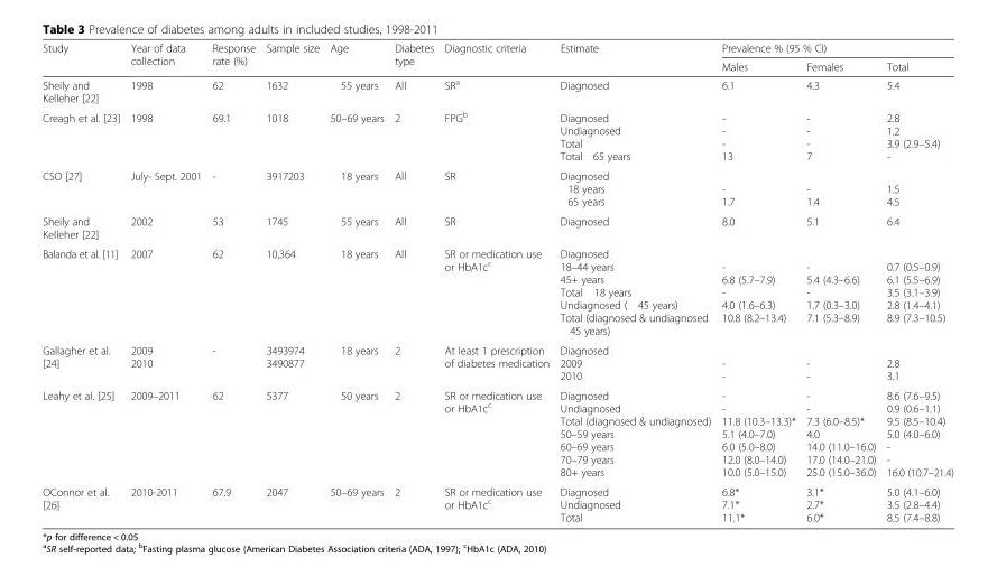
<table><thead><tr><td rowspan="2">Study</td><td rowspan="2">Year of data collection</td><td rowspan="2">Response rate (%)</td><td rowspan="2">Sample size</td><td rowspan="2">Age</td><td rowspan="2">Diabetes type</td><td rowspan="2">Diagnostic criteria</td><td rowspan="2">Estimate</td><td colspan="3">Prevalence % (95 % CI)</td></tr><tr><td>Males</td><td>Females</td><td>Total</td></tr></thead><tbody><tr><td>Sheily and Kelleher [22]</td><td>1998</td><td>62</td><td>1632</td><td>55 years</td><td>All</td><td>SR<sup>a</sup></td><td>Diagnosed</td><td>6.1</td><td>4.3</td><td>5.4</td></tr><tr><td>Creagh et al. [23]</td><td>1998</td><td>69.1</td><td>1018</td><td>50–69 years</td><td>2</td><td>FPG<sup>b</sup></td><td>Diagnosed Undiagnosed Total Total 65 years</td><td>- - - 13</td><td>- - - 7</td><td>2.8 1.2 3.9 (2.9–5.4) -</td></tr><tr><td>CSO [27]</td><td>July- Sept. 2001</td><td>-</td><td>3917203</td><td>18 years</td><td>All</td><td>SR</td><td>Diagnosed 18 years 65 years</td><td>- 1.7</td><td>- 1.4</td><td>1.5 4.5</td></tr><tr><td>Sheily and Kelleher [22]</td><td>2002</td><td>53</td><td>1745</td><td>55 years</td><td>All</td><td>SR</td><td>Diagnosed</td><td>8.0</td><td>5.1</td><td>6.4</td></tr><tr><td>Balanda et al. [11]</td><td>2007</td><td>62</td><td>10,364</td><td>18 years</td><td>All</td><td>SR or medication use or HbA1c<sup>c</sup></td><td>Diagnosed 18–44 years 45+ years Total 18 years Undiagnosed ( 45 years) Total (diagnosed &amp; undiagnosed 45 years)</td><td>- 6.8 (5.7–7.9) - 4.0 (1.6–6.3) 10.8 (8.2–13.4)</td><td>- 5.4 (4.3–6.6) - 1.7 (0.3–3.0) 7.1 (5.3–8.9)</td><td>0.7 (0.5–0.9) 6.1 (5.5–6.9) 3.5 (3.1–3.9) 2.8 (1.4–4.1) 8.9 (7.3–10.5)</td></tr><tr><td>Gallagher et al. [24]</td><td>2009 2010</td><td>-</td><td>3493974 3490877</td><td>18 years</td><td>2</td><td>At least 1 prescription of diabetes medication</td><td>Diagnosed 2009 2010</td><td>- -</td><td>- -</td><td>2.8 3.1</td></tr><tr><td>Leahy et al. [25]</td><td>2009–2011</td><td>62</td><td>5377</td><td>50 years</td><td>2</td><td>SR or medication use or HbA1c<sup>c</sup></td><td>Diagnosed Undiagnosed Total (diagnosed &amp; undiagnosed) 50–59 years 60–69 years 70–79 years 80+ years</td><td>- - 11.8 (10.3–13.3)* 5.1 (4.0–7.0) 6.0 (5.0–8.0) 12.0 (8.0–14.0) 10.0 (5.0–15.0)</td><td>- - 7.3 (6.0–8.5)* 4.0 14.0 (11.0–16.0) 17.0 (14.0–21.0) 25.0 (15.0–36.0)</td><td>8.6 (7.6–9.5) 0.9 (0.6–1.1) 9.5 (8.5–10.4) 5.0 (4.0–6.0) - - 16.0 (10.7–21.4)</td></tr><tr><td>OConnor et al. [26]</td><td>2010-2011</td><td>67.9</td><td>2047</td><td>50–69 years</td><td>2</td><td>SR or medication use or HbA1c<sup>c</sup></td><td>Diagnosed Undiagnosed Total</td><td>6.8* 7.1* 11.1*</td><td>3.1* 2.7* 6.0*</td><td>5.0 (4.1–6.0) 3.5 (2.8–4.4) 8.5 (7.4–8.8)</td></tr></tbody></table>